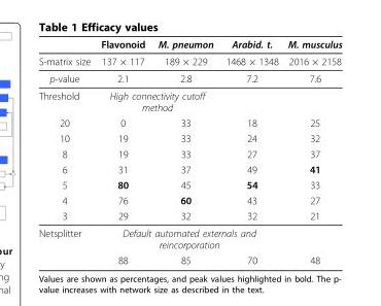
<table><thead><tr><td></td><td>Flavonoid</td><td>M. pneumon</td><td>Arabid. t.</td><td>M. musculus</td></tr></thead><tbody><tr><td>S-matrix size</td><td>137 × 117</td><td>189 × 229</td><td>1468 × 1348</td><td>2016 × 2158</td></tr><tr><td>p-value</td><td>2.1</td><td>2.8</td><td>7.2</td><td>7.6</td></tr><tr><td>Threshold</td><td colspan="2">High connectivity cutoff method</td><td></td><td></td></tr><tr><td>20</td><td>0</td><td>33</td><td>18</td><td>25</td></tr><tr><td>10</td><td>19</td><td>33</td><td>24</td><td>32</td></tr><tr><td>8</td><td>19</td><td>33</td><td>27</td><td>37</td></tr><tr><td>6</td><td>31</td><td>37</td><td>49</td><td>41</td></tr><tr><td>5</td><td>80</td><td>45</td><td>54</td><td>33</td></tr><tr><td>4</td><td>76</td><td>60</td><td>43</td><td>27</td></tr><tr><td>3</td><td>29</td><td>32</td><td>32</td><td>21</td></tr><tr><td rowspan="2">Netsplitter</td><td colspan="3">Default automated externals and reincorporation</td><td></td></tr><tr><td>88</td><td>85</td><td>70</td><td>48</td></tr></tbody></table>